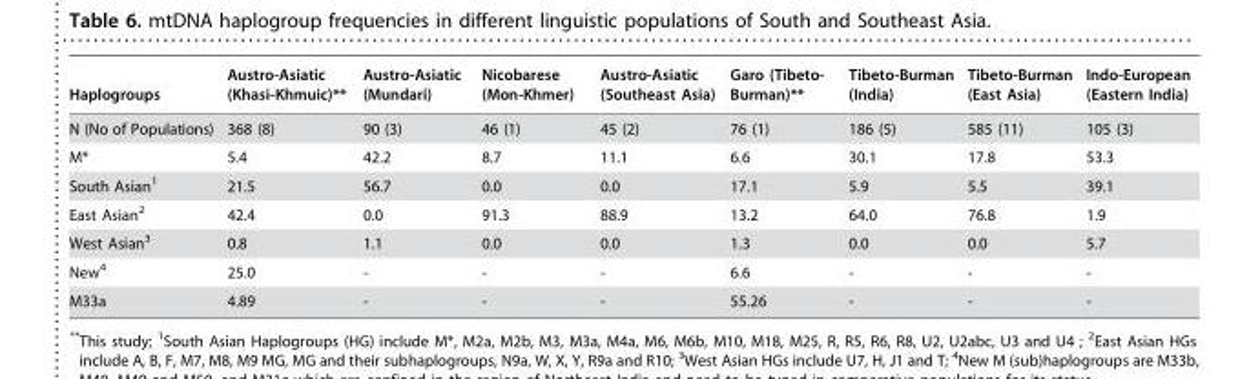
<table><thead><tr><td>Haplogroups</td><td>Austro-Asiatic (Khasi-Khmuic)**</td><td>Austro-Asiatic (Mundari)</td><td>Nicobarese (Mon-Khmer)</td><td>Austro-Asiatic (Southeast Asia)</td><td>Garo (Tibeto- Burman)**</td><td>Tibeto-Burman (India)</td><td>Tibeto-Burman (East Asia)</td><td>Indo-European (Eastern India)</td></tr></thead><tbody><tr><td>N (No of Populations)</td><td>368 (8)</td><td>90 (3)</td><td>46 (1)</td><td>45 (2)</td><td>76 (1)</td><td>186 (5)</td><td>585 (11)</td><td>105 (3)</td></tr><tr><td>M*</td><td>5.4</td><td>42.2</td><td>8.7</td><td>11.1</td><td>6.6</td><td>30.1</td><td>17.8</td><td>53.3</td></tr><tr><td>South Asian<sup>1</sup></td><td>21.5</td><td>56.7</td><td>0.0</td><td>0.0</td><td>17.1</td><td>5.9</td><td>5.5</td><td>39.1</td></tr><tr><td>East Asian<sup>2</sup></td><td>42.4</td><td>0.0</td><td>91.3</td><td>88.9</td><td>13.2</td><td>64.0</td><td>76.8</td><td>1.9</td></tr><tr><td>West Asian<sup>3</sup></td><td>0.8</td><td>1.1</td><td>0.0</td><td>0.0</td><td>1.3</td><td>0.0</td><td>0.0</td><td>5.7</td></tr><tr><td>New<sup>4</sup></td><td>25.0</td><td>-</td><td>-</td><td>-</td><td>6.6</td><td>-</td><td>-</td><td>-</td></tr><tr><td>M33a</td><td>4.89</td><td>-</td><td>-</td><td>-</td><td>55.26</td><td>-</td><td>-</td><td>-</td></tr></tbody></table>